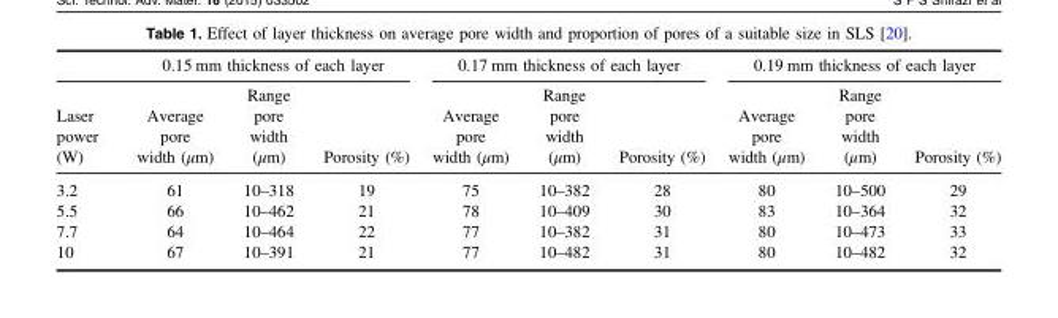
<table><thead><tr><td rowspan="2">Laser power (W)</td><td colspan="3">0.15 mm thickness of each layer</td><td colspan="3">0.17 mm thickness of each layer</td><td colspan="3">0.19 mm thickness of each layer</td></tr><tr><td>Average pore width (μm)</td><td>Range pore width (μm)</td><td>Porosity (%)</td><td>Average pore width (μm)</td><td>Range pore width (μm)</td><td>Porosity (%)</td><td>Average pore width (μm)</td><td>Range pore width (μm)</td><td>Porosity (%)</td></tr></thead><tbody><tr><td>3.2</td><td>61</td><td>10–318</td><td>19</td><td>75</td><td>10–382</td><td>28</td><td>80</td><td>10–500</td><td>29</td></tr><tr><td>5.5</td><td>66</td><td>10–462</td><td>21</td><td>78</td><td>10–409</td><td>30</td><td>83</td><td>10–364</td><td>32</td></tr><tr><td>7.7</td><td>64</td><td>10–464</td><td>22</td><td>77</td><td>10–382</td><td>31</td><td>80</td><td>10–473</td><td>33</td></tr><tr><td>10</td><td>67</td><td>10–391</td><td>21</td><td>77</td><td>10–482</td><td>31</td><td>80</td><td>10–482</td><td>32</td></tr></tbody></table>